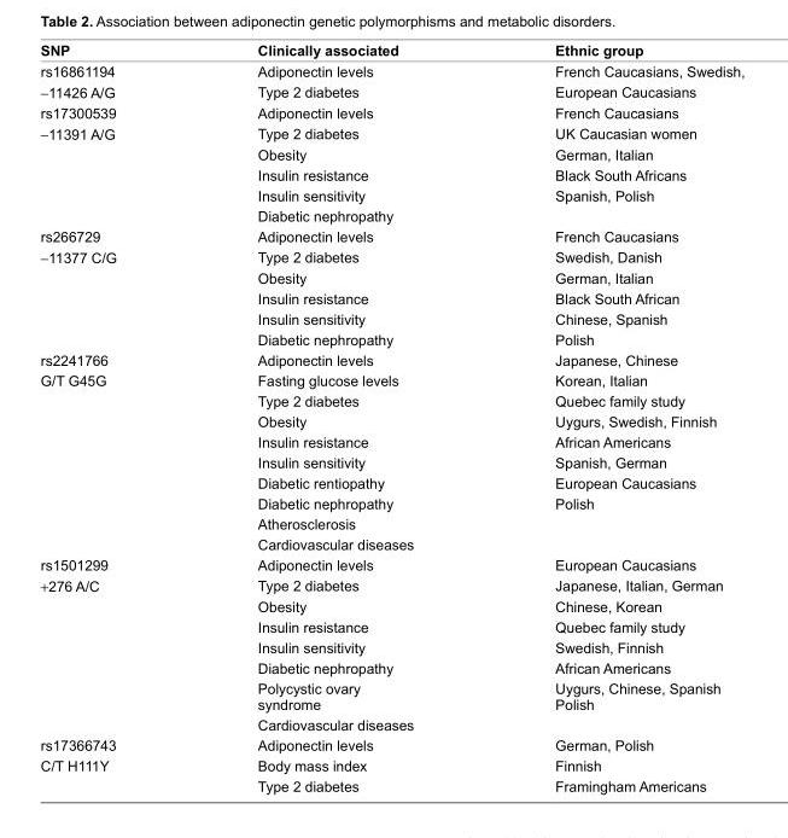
<table><thead><tr><td>snp</td><td>clinically associated</td><td>ethnic group</td></tr></thead><tbody><tr><td>rs16861194</td><td>Adiponectin levels</td><td>French Caucasians, Swedish,</td></tr><tr><td>-11426 A/G</td><td>Type 2 diabetes</td><td>european Caucasians</td></tr><tr><td>rs17300539</td><td>Adiponectin levels</td><td>French Caucasians</td></tr><tr><td rowspan="5">-11391 A/G</td><td>Type 2 diabetes</td><td>UK Caucasian women</td></tr><tr><td>Obesity</td><td>German, Italian</td></tr><tr><td>Insulin resistance</td><td>Black South Africans</td></tr><tr><td>Insulin sensitivity</td><td>Spanish, Polish</td></tr><tr><td>Diabetic nephropathy</td><td></td></tr><tr><td>rs266729</td><td>Adiponectin levels</td><td>French Caucasians</td></tr><tr><td rowspan="5">-11377 C/G</td><td>Type 2 diabetes</td><td>Swedish, Danish</td></tr><tr><td>Obesity</td><td>German, Italian</td></tr><tr><td>Insulin resistance</td><td>Black South African</td></tr><tr><td>Insulin sensitivity</td><td>Chinese, Spanish</td></tr><tr><td>Diabetic nephropathy</td><td>Polish</td></tr><tr><td>rs2241766</td><td>Adiponectin levels</td><td>Japanese, Chinese</td></tr><tr><td rowspan="9">G/T G45G</td><td>Fasting glucose levels</td><td>Korean, Italian</td></tr><tr><td>Type 2 diabetes</td><td>Quebec family study</td></tr><tr><td>Obesity</td><td>Uygurs, Swedish, Finnish</td></tr><tr><td>Insulin resistance</td><td>African Americans</td></tr><tr><td>Insulin sensitivity</td><td>Spanish, German</td></tr><tr><td>Diabetic rentiopathy</td><td>european Caucasians</td></tr><tr><td>Diabetic nephropathy</td><td>Polish</td></tr><tr><td>Atherosclerosis</td><td></td></tr><tr><td>Cardiovascular diseases</td><td></td></tr><tr><td>rs1501299</td><td>Adiponectin levels</td><td>european Caucasians</td></tr><tr><td rowspan="7">+276 A/C</td><td>Type 2 diabetes</td><td>Japanese, Italian, German</td></tr><tr><td>Obesity</td><td>Chinese, Korean</td></tr><tr><td>Insulin resistance</td><td>Quebec family study</td></tr><tr><td>Insulin sensitivity</td><td>Swedish, Finnish</td></tr><tr><td>Diabetic nephropathy</td><td>African Americans</td></tr><tr><td>Polycystic ovary syndrome</td><td>Uygurs, Chinese, Spanish Polish</td></tr><tr><td>Cardiovascular diseases</td><td></td></tr><tr><td>rs17366743</td><td>Adiponectin levels</td><td>German, Polish</td></tr><tr><td rowspan="2">C/T H111Y</td><td>Body mass index</td><td>Finnish</td></tr><tr><td>Type 2 diabetes</td><td>Framingham Americans</td></tr></tbody></table>